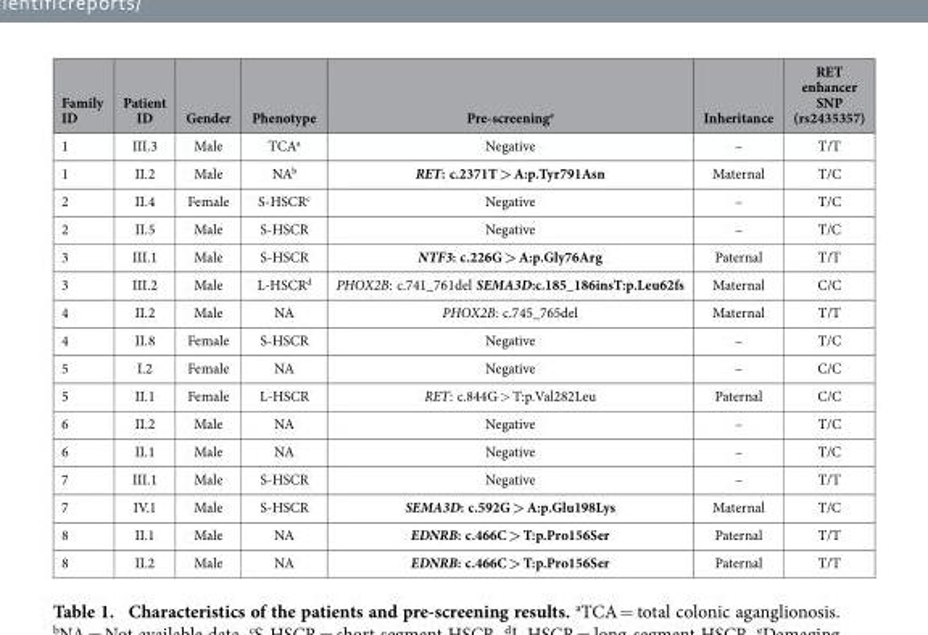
<table><thead><tr><td>Family ID</td><td>Patient ID</td><td>Gender</td><td>Phenotype</td><td>Pre-screening<sup>e</sup></td><td>Inheritance</td><td>RET enhancer SNP (rs2435357)</td></tr></thead><tbody><tr><td>1</td><td>III.3</td><td>Male</td><td>TCA<sup>a</sup></td><td>Negative</td><td>–</td><td>T/T</td></tr><tr><td>1</td><td>II.2</td><td>Male</td><td>NA<sup>b</sup></td><td>RET: c.2371T &gt; A:p.Tyr791Asn</td><td>Maternal</td><td>T/C</td></tr><tr><td>2</td><td>II.4</td><td>Female</td><td>S-HSCR<sup>c</sup></td><td>Negative</td><td>–</td><td>T/C</td></tr><tr><td>2</td><td>II.5</td><td>Male</td><td>S-HSCR</td><td>Negative</td><td>–</td><td>T/C</td></tr><tr><td>3</td><td>III.1</td><td>Male</td><td>S-HSCR</td><td>NTF3: c.226G &gt; A:p.Gly76Arg</td><td>Paternal</td><td>T/T</td></tr><tr><td>3</td><td>III.2</td><td>Male</td><td>L-HSCR<sup>d</sup></td><td>PHOX2B: c.741_761del SEMA3D:c.185_186insT:p.Leu62fs</td><td>Maternal</td><td>C/C</td></tr><tr><td>4</td><td>II.2</td><td>Male</td><td>NA</td><td>PHOX2B: c.745_765del</td><td>Maternal</td><td>T/T</td></tr><tr><td>4</td><td>II.8</td><td>Female</td><td>S-HSCR</td><td>Negative</td><td>–</td><td>T/C</td></tr><tr><td>5</td><td>I.2</td><td>Female</td><td>NA</td><td>Negative</td><td>–</td><td>C/C</td></tr><tr><td>5</td><td>II.1</td><td>Female</td><td>L-HSCR</td><td>RET: c.844G &gt; T:p.Val282Leu</td><td>Paternal</td><td>C/C</td></tr><tr><td>6</td><td>II.2</td><td>Male</td><td>NA</td><td>Negative</td><td>–</td><td>T/C</td></tr><tr><td>6</td><td>II.1</td><td>Male</td><td>NA</td><td>Negative</td><td>–</td><td>T/C</td></tr><tr><td>7</td><td>III.1</td><td>Male</td><td>S-HSCR</td><td>Negative</td><td>–</td><td>T/T</td></tr><tr><td>7</td><td>IV.1</td><td>Male</td><td>S-HSCR</td><td>SEMA3D: c.592G &gt; A:p.Glu198Lys</td><td>Maternal</td><td>T/C</td></tr><tr><td>8</td><td>II.1</td><td>Male</td><td>NA</td><td>EDNRB: c.466C &gt; T:p.Pro156Ser</td><td>Paternal</td><td>T/T</td></tr><tr><td>8</td><td>II.2</td><td>Male</td><td>NA</td><td>EDNRB: c.466C &gt; T:p.Pro156Ser</td><td>Paternal</td><td>T/T</td></tr></tbody></table>